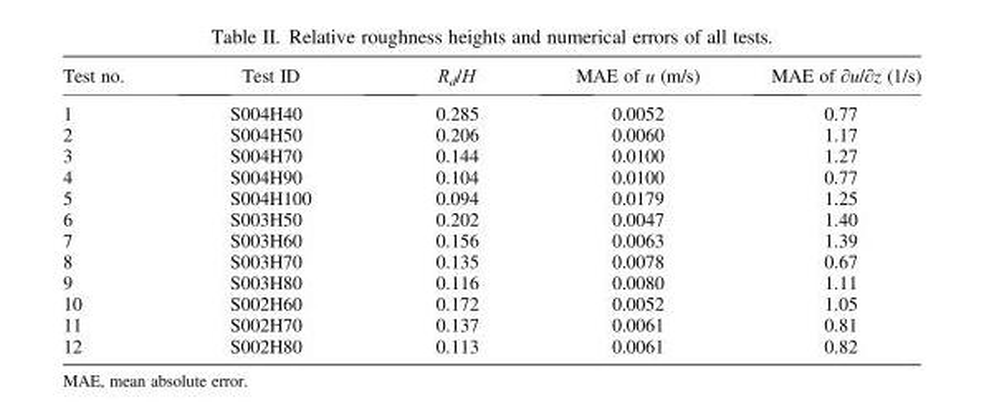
<table><thead><tr><td>Test no.</td><td>Test ID</td><td>R<sub>d</sub>/H</td><td>MAE of u (m/s)</td><td>MAE of ∂u/∂z (1/s)</td></tr></thead><tbody><tr><td>1</td><td>S004H40</td><td>0.285</td><td>0.0052</td><td>0.77</td></tr><tr><td>2</td><td>S004H50</td><td>0.206</td><td>0.0060</td><td>1.17</td></tr><tr><td>3</td><td>S004H70</td><td>0.144</td><td>0.0100</td><td>1.27</td></tr><tr><td>4</td><td>S004H90</td><td>0.104</td><td>0.0100</td><td>0.77</td></tr><tr><td>5</td><td>S004H100</td><td>0.094</td><td>0.0179</td><td>1.25</td></tr><tr><td>6</td><td>S003H50</td><td>0.202</td><td>0.0047</td><td>1.40</td></tr><tr><td>7</td><td>S003H60</td><td>0.156</td><td>0.0063</td><td>1.39</td></tr><tr><td>8</td><td>S003H70</td><td>0.135</td><td>0.0078</td><td>0.67</td></tr><tr><td>9</td><td>S003H80</td><td>0.116</td><td>0.0080</td><td>1.11</td></tr><tr><td>10</td><td>S002H60</td><td>0.172</td><td>0.0052</td><td>1.05</td></tr><tr><td>11</td><td>S002H70</td><td>0.137</td><td>0.0061</td><td>0.81</td></tr><tr><td>12</td><td>S002H80</td><td>0.113</td><td>0.0061</td><td>0.82</td></tr></tbody></table>